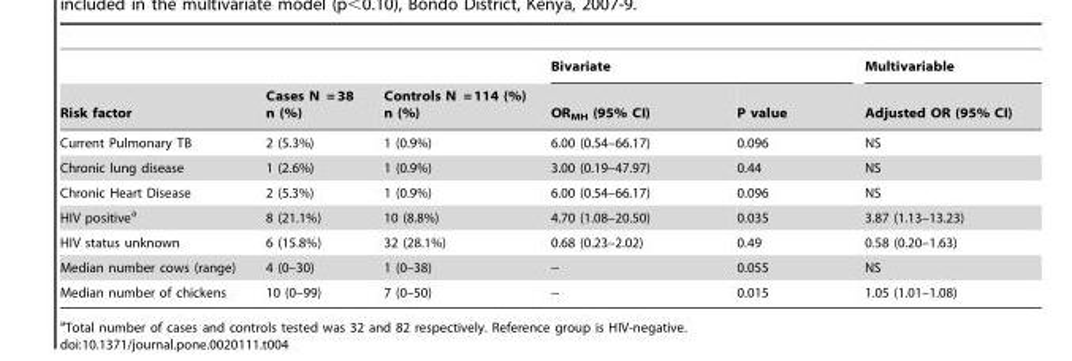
<table><thead><tr><td rowspan="2">Risk factor</td><td rowspan="2">Cases N = 38 n (%)</td><td rowspan="2">Controls N = 114 (%) n (%)</td><td colspan="2">Bivariate</td><td rowspan="2">Multivariable Adjusted OR (95% CI)</td></tr><tr><td>OR<sub>MH</sub> (95% CI)</td><td>P value</td></tr></thead><tbody><tr><td>Current Pulmonary TB</td><td>2 (5.3%)</td><td>1 (0.9%)</td><td>6.00 (0.54–66.17)</td><td>0.096</td><td>NS</td></tr><tr><td>Chronic lung disease</td><td>1 (2.6%)</td><td>1 (0.9%)</td><td>3.00 (0.19–47.97)</td><td>0.44</td><td>NS</td></tr><tr><td>Chronic Heart Disease</td><td>2 (5.3%)</td><td>1 (0.9%)</td><td>6.00 (0.54–66.17)</td><td>0.096</td><td>NS</td></tr><tr><td>HIV positive<sup>a</sup></td><td>8 (21.1%)</td><td>10 (8.8%)</td><td>4.70 (1.08–20.50)</td><td>0.035</td><td>3.87 (1.13–13.23)</td></tr><tr><td>HIV status unknown</td><td>6 (15.8%)</td><td>32 (28.1%)</td><td>0.68 (0.23–2.02)</td><td>0.49</td><td>0.58 (0.20–1.63)</td></tr><tr><td>Median number cows (range)</td><td>4 (0–30)</td><td>1 (0–38)</td><td>--</td><td>0.055</td><td>NS</td></tr><tr><td>Median number of chickens</td><td>10 (0–99)</td><td>7 (0–50)</td><td>--</td><td>0.015</td><td>1.05 (1.01–1.08)</td></tr></tbody></table>